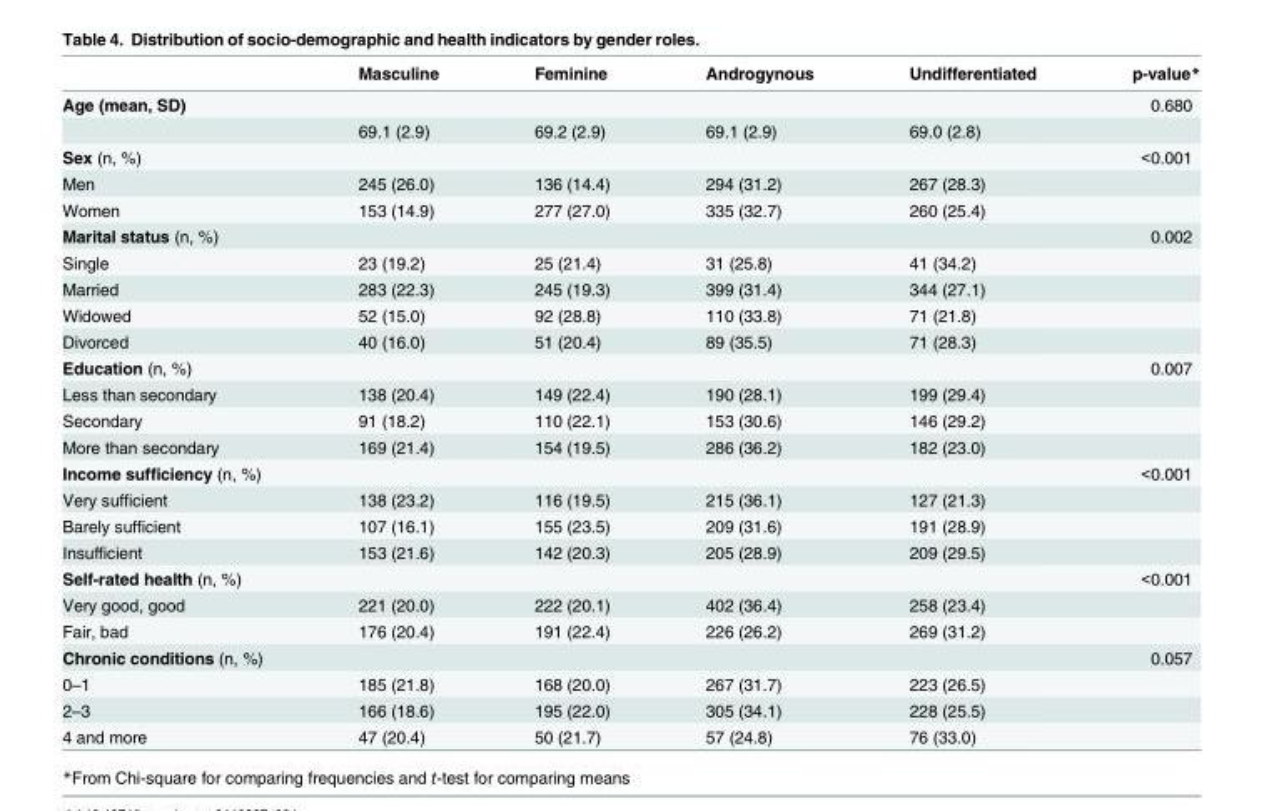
<table><thead><tr><td></td><td>Masculine</td><td>Feminine</td><td>Androgynous</td><td>Undifferentiated</td><td>p-value*</td></tr></thead><tbody><tr><td rowspan="2">Age (mean, SD)</td><td></td><td></td><td></td><td></td><td>0.680</td></tr><tr><td>69.1 (2.9)</td><td>69.2 (2.9)</td><td>69.1 (2.9)</td><td>69.0 (2.8)</td><td></td></tr><tr><td>Sex (n, %)</td><td></td><td></td><td></td><td></td><td>&lt;0.001</td></tr><tr><td>Men</td><td>245 (26.0)</td><td>136 (14.4)</td><td>294 (31.2)</td><td>267 (28.3)</td><td></td></tr><tr><td>Women</td><td>153 (14.9)</td><td>277 (27.0)</td><td>335 (32.7)</td><td>260 (25.4)</td><td></td></tr><tr><td>Marital status (n, %)</td><td></td><td></td><td></td><td></td><td>0.002</td></tr><tr><td>Single</td><td>23 (19.2)</td><td>25 (21.4)</td><td>31 (25.8)</td><td>41 (34.2)</td><td></td></tr><tr><td>Married</td><td>283 (22.3)</td><td>245 (19.3)</td><td>399 (31.4)</td><td>344 (27.1)</td><td></td></tr><tr><td>Widowed</td><td>52 (15.0)</td><td>92 (28.8)</td><td>110 (33.8)</td><td>71 (21.8)</td><td></td></tr><tr><td>Divorced</td><td>40 (16.0)</td><td>51 (20.4)</td><td>89 (35.5)</td><td>71 (28.3)</td><td></td></tr><tr><td>Education (n, %)</td><td></td><td></td><td></td><td></td><td>0.007</td></tr><tr><td>Less than secondary</td><td>138 (20.4)</td><td>149 (22.4)</td><td>190 (28.1)</td><td>199 (29.4)</td><td></td></tr><tr><td>Secondary</td><td>91 (18.2)</td><td>110 (22.1)</td><td>153 (30.6)</td><td>146 (29.2)</td><td></td></tr><tr><td>More than secondary</td><td>169 (21.4)</td><td>154 (19.5)</td><td>286 (36.2)</td><td>182 (23.0)</td><td></td></tr><tr><td>Income sufficiency (n, %)</td><td></td><td></td><td></td><td></td><td>&lt;0.001</td></tr><tr><td>Very sufficient</td><td>138 (23.2)</td><td>116 (19.5)</td><td>215 (36.1)</td><td>127 (21.3)</td><td></td></tr><tr><td>Barely sufficient</td><td>107 (16.1)</td><td>155 (23.5)</td><td>209 (31.6)</td><td>191 (28.9)</td><td></td></tr><tr><td>Insufficient</td><td>153 (21.6)</td><td>142 (20.3)</td><td>205 (28.9)</td><td>209 (29.5)</td><td></td></tr><tr><td>Self-rated health (n, %)</td><td></td><td></td><td></td><td></td><td>&lt;0.001</td></tr><tr><td>Very good, good</td><td>221 (20.0)</td><td>222 (20.1)</td><td>402 (36.4)</td><td>258 (23.4)</td><td></td></tr><tr><td>Fair, bad</td><td>176 (20.4)</td><td>191 (22.4)</td><td>226 (26.2)</td><td>269 (31.2)</td><td></td></tr><tr><td>Chronic conditions (n, %)</td><td></td><td></td><td></td><td></td><td>0.057</td></tr><tr><td>0–1</td><td>185 (21.8)</td><td>168 (20.0)</td><td>267 (31.7)</td><td>223 (26.5)</td><td></td></tr><tr><td>2–3</td><td>166 (18.6)</td><td>195 (22.0)</td><td>305 (34.1)</td><td>228 (25.5)</td><td></td></tr><tr><td>4 and more</td><td>47 (20.4)</td><td>50 (21.7)</td><td>57 (24.8)</td><td>76 (33.0)</td><td></td></tr></tbody></table>